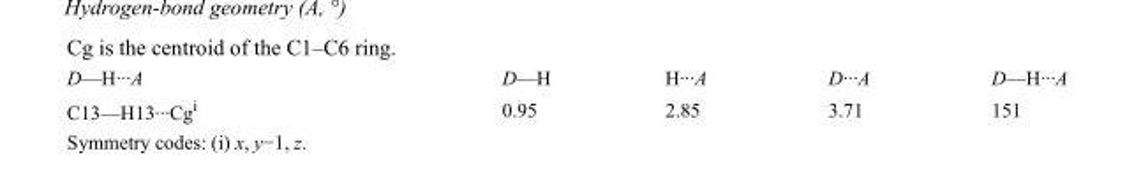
<table><tbody><tr><td>D—H···A</td><td>D—H</td><td>H···A</td><td>D···A</td><td>D—H···A</td></tr><tr><td>C13—H13···Cg<sup>i</sup></td><td>0.95</td><td>2.85</td><td>3.71</td><td>151</td></tr></tbody></table>